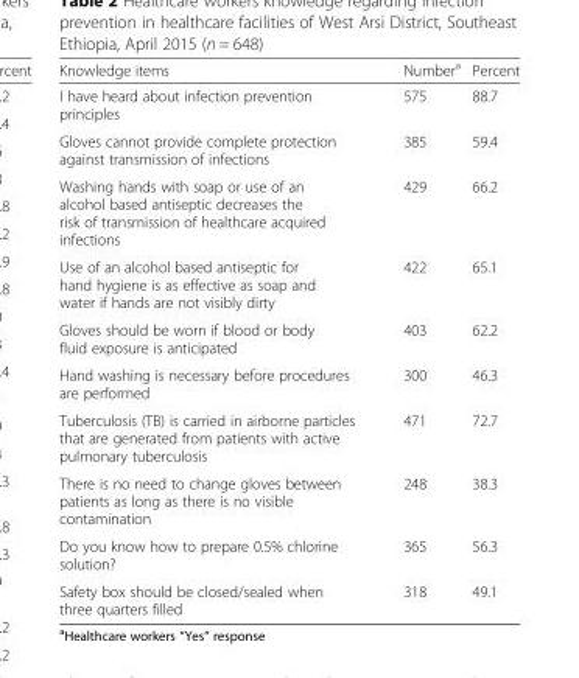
<table><thead><tr><td>Knowledge items</td><td>Number<sup>a</sup></td><td>Percent</td></tr></thead><tbody><tr><td>I have heard about infection prevention principles</td><td>575</td><td>88.7</td></tr><tr><td>Gloves cannot provide complete protection against transmission of infections</td><td>385</td><td>59.4</td></tr><tr><td>Washing hands with soap or use of an alcohol based antiseptic decreases the risk of transmission of healthcare acquired infections</td><td>429</td><td>66.2</td></tr><tr><td>Use of an alcohol based antiseptic for hand hygiene is as effective as soap and water if hands are not visibly dirty</td><td>422</td><td>65.1</td></tr><tr><td>Gloves should be worn if blood or body fluid exposure is anticipated</td><td>403</td><td>62.2</td></tr><tr><td>Hand washing is necessary before procedures are performed</td><td>300</td><td>46.3</td></tr><tr><td>Tuberculosis (TB) is carried in airborne particles that are generated from patients with active pulmonary tuberculosis</td><td>471</td><td>72.7</td></tr><tr><td>There is no need to change gloves between patients as long as there is no visible contamination</td><td>248</td><td>38.3</td></tr><tr><td>Do you know how to prepare 0.5% chlorine solution?</td><td>365</td><td>56.3</td></tr><tr><td>Safety box should be closed/sealed when three quarters filled</td><td>318</td><td>49.1</td></tr></tbody></table>